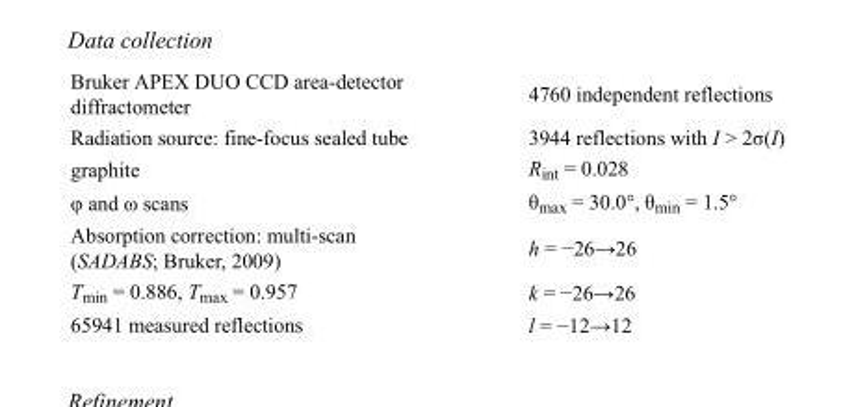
<table><tbody><tr><td>Bruker APEX DUO CCD area-detector diffractometer</td><td>4760 independent reflections</td></tr><tr><td>Radiation source: fine-focus sealed tube</td><td>3944 reflections with I &gt; 2σ(I)</td></tr><tr><td>graphite</td><td>R<sub>int</sub> = 0.028</td></tr><tr><td>φ and ω scans</td><td>θ<sub>max</sub> = 30.0°, θ<sub>min</sub> = 1.5°</td></tr><tr><td>Absorption correction: multi-scan (SADABS; Bruker, 2009)</td><td>h = −26→26</td></tr><tr><td>T<sub>min</sub> = 0.886, T<sub>max</sub> = 0.957</td><td>k = −26→26</td></tr><tr><td>65941 measured reflections</td><td>l = −12→12</td></tr></tbody></table>